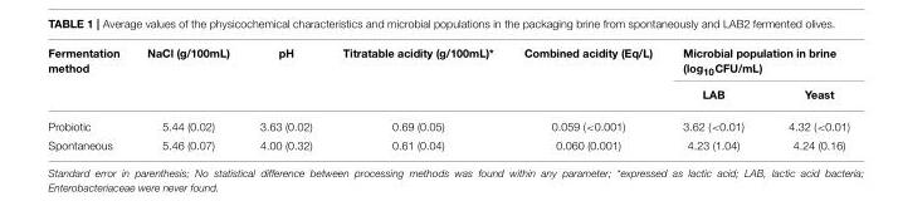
<table><thead><tr><td rowspan="2">Fermentation method</td><td rowspan="2">NaCl (g/100mL)</td><td rowspan="2">pH</td><td rowspan="2">Titratable acidity (g/100mL)*</td><td rowspan="2">Combined acidity (Eq/L)</td><td colspan="2">Microbial population in brine (log<sub>10</sub>CFU/mL)</td></tr><tr><td>LAB</td><td>Yeast</td></tr></thead><tbody><tr><td>Probiotic</td><td>5.44 (0.02)</td><td>3.63 (0.02)</td><td>0.69 (0.05)</td><td>0.059 (&lt;0.001)</td><td>3.62 (&lt;0.01)</td><td>4.32 (&lt;0.01)</td></tr><tr><td>Spontaneous</td><td>5.46 (0.07)</td><td>4.00 (0.32)</td><td>0.61 (0.04)</td><td>0.060 (0.001)</td><td>4.23 (1.04)</td><td>4.24 (0.16)</td></tr></tbody></table>